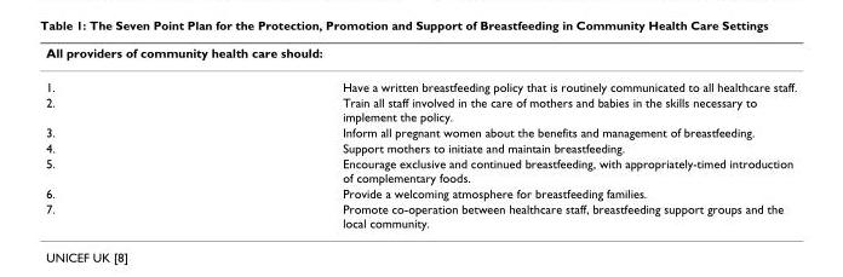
<table><thead><tr><td colspan="2">All providers of community health care should:</td></tr><tr><td>1.</td><td>Have a written breastfeeding policy that is routinely communicated to all healthcare staff.</td></tr></thead><tbody><tr><td>2.</td><td>Train all staff involved in the care of mothers and babies in the skills necessary to implement the policy.</td></tr><tr><td>3.</td><td>Inform all pregnant women about the benefits and management of breastfeeding.</td></tr><tr><td>4.</td><td>Support mothers to initiate and maintain breastfeeding.</td></tr><tr><td>5.</td><td>Encourage exclusive and continued breastfeeding, with appropriately-timed introduction of complementary foods.</td></tr><tr><td>6.</td><td>Provide a welcoming atmosphere for breastfeeding families.</td></tr><tr><td>7.</td><td>Promote co-operation between healthcare staff, breastfeeding support groups and the local community.</td></tr></tbody></table>